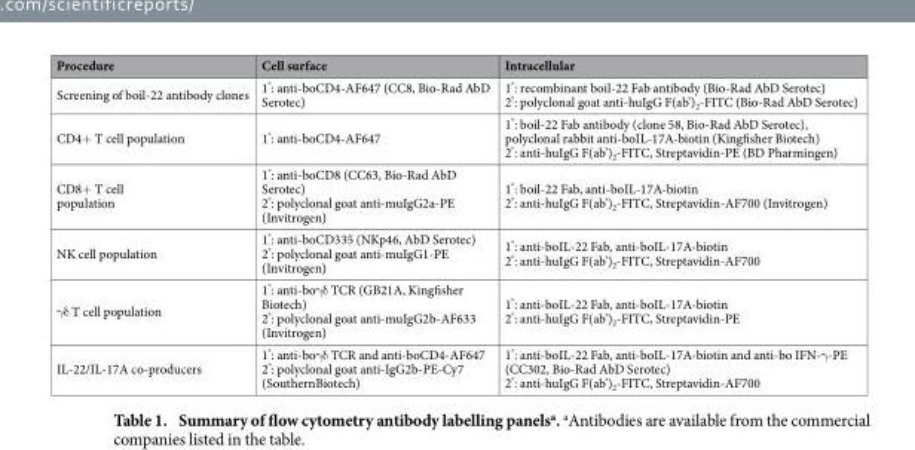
<table><thead><tr><td>Procedure</td><td>Cell surface</td><td>Intracellular</td></tr></thead><tbody><tr><td>Screening of boil-22 antibody clones</td><td>1<sup>°</sup>: anti-boCD4-AF647 (CC8, Bio-Rad AbD Serotec)</td><td>1<sup>°</sup>: recombinant boil-22 Fab antibody (Bio-Rad AbD Serotec) 2<sup>°</sup>: polyclonal goat anti-huIgG F(ab’)<sub>2</sub>-FITC (Bio-Rad AbD Serotec)</td></tr><tr><td>CD4+ T cell population</td><td>1<sup>°</sup>: anti-boCD4-AF647</td><td>1<sup>°</sup>: boil-22 Fab antibody (clone 58, Bio-Rad AbD Serotec), polyclonal rabbit anti-boIL-17A-biotin (Kingfisher Biotech) 2<sup>°</sup>: anti-huIgG F(ab’)<sub>2</sub>-FITC, Streptavidin-PE (BD Pharmingen)</td></tr><tr><td>CD8+ T cell population</td><td>1<sup>°</sup>: anti-boCD8 (CC63, Bio-Rad AbD Serotec) 2<sup>°</sup>: polyclonal goat anti-muIgG2a-PE (Invitrogen)</td><td>1<sup>°</sup>: boil-22 Fab, anti-boIL-17A-biotin 2<sup>°</sup>: anti-huIgG F(ab’)<sub>2</sub>-FITC, Streptavidin-AF700 (Invitrogen)</td></tr><tr><td>NK cell population</td><td>1<sup>°</sup>: anti-boCD335 (NKp46, AbD Serotec) 2<sup>°</sup>: polyclonal goat anti-muIgG1-PE (Invitrogen)</td><td>1<sup>°</sup>: anti-boIL-22 Fab, anti-boIL-17A-biotin 2<sup>°</sup>: anti-huIgG F(ab’)<sub>2</sub>-FITC, Streptavidin-AF700</td></tr><tr><td>γ δ T cell population</td><td>1<sup>°</sup>: anti-boγ δ TCR (GB21A, Kingfisher Biotech) 2<sup>°</sup>: polyclonal goat anti-muIgG2b-AF633 (Invitrogen)</td><td>1<sup>°</sup>: anti-boIL-22 Fab, anti-boIL-17A-biotin 2<sup>°</sup>: anti-huIgG F(ab’)<sub>2</sub>-FITC, Streptavidin-PE</td></tr><tr><td>IL-22/IL-17A co-producers</td><td>1<sup>°</sup>: anti-boγ δ TCR and anti-boCD4-AF647 2<sup>°</sup>: polyclonal goat anti-IgG2b-PE-Cy7 (SouthernBiotech)</td><td>1<sup>°</sup>: anti-boIL-22 Fab, anti-boIL-17A-biotin and anti-bo IFN-γ -PE (CC302, Bio-Rad AbD Serotec) 2<sup>°</sup>: anti-huIgG F(ab’)<sub>2</sub>-FITC, Streptavidin-AF700</td></tr></tbody></table>